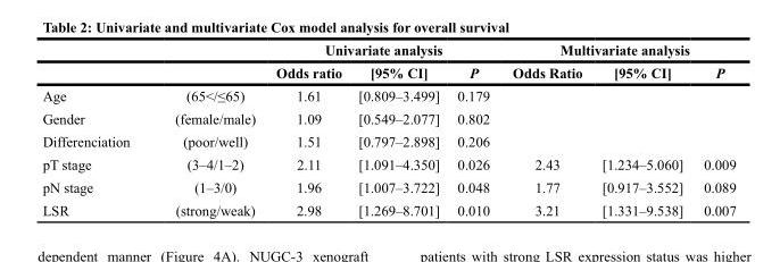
<table><thead><tr><td rowspan="2"></td><td rowspan="2"></td><td colspan="3">Univariate analysis</td><td colspan="3">Multivariate analysis</td></tr><tr><td>Odds ratio</td><td>[95% CI]</td><td>P</td><td>Odds Ratio</td><td>[95% CI]</td><td>P</td></tr></thead><tbody><tr><td>Age</td><td>(65&lt;/≤65)</td><td>1.61</td><td>[0.809–3.499]</td><td>0.179</td><td></td><td></td><td></td></tr><tr><td>Gender</td><td>(female/male)</td><td>1.09</td><td>[0.549–2.077]</td><td>0.802</td><td></td><td></td><td></td></tr><tr><td>Differenciation</td><td>(poor/well)</td><td>1.51</td><td>[0.797–2.898]</td><td>0.206</td><td></td><td></td><td></td></tr><tr><td>pT stage</td><td>(3–4/1–2)</td><td>2.11</td><td>[1.091–4.350]</td><td>0.026</td><td>2.43</td><td>[1.234–5.060]</td><td>0.009</td></tr><tr><td>pN stage</td><td>(1–3/0)</td><td>1.96</td><td>[1.007–3.722]</td><td>0.048</td><td>1.77</td><td>[0.917–3.552]</td><td>0.089</td></tr><tr><td>LSR</td><td>(strong/weak)</td><td>2.98</td><td>[1.269–8.701]</td><td>0.010</td><td>3.21</td><td>[1.331–9.538]</td><td>0.007</td></tr></tbody></table>